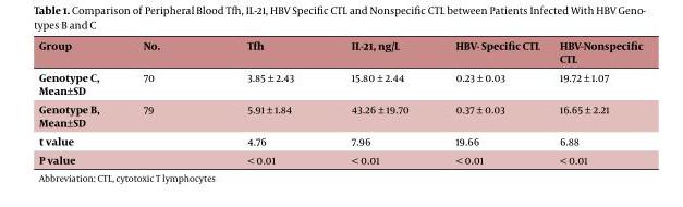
<table><thead><tr><td>Group</td><td>No.</td><td>Tfh</td><td>IL-21, ng/L</td><td>HBV- Specific CTL</td><td>HBV-Nonspecific CTL</td></tr></thead><tbody><tr><td>Genotype C, Mean±SD</td><td>70</td><td>3.85 ± 2.43</td><td>15.80 ± 2.44</td><td>0.23 ± 0.03</td><td>19.72 ± 1.07</td></tr><tr><td>Genotype B, Mean±SD</td><td>79</td><td>5.91 ± 1.84</td><td>43.26 ± 19.70</td><td>0.37 ± 0.03</td><td>16.65 ± 2.21</td></tr><tr><td>t value</td><td></td><td>4.76</td><td>7.96</td><td>19.66</td><td>6.88</td></tr><tr><td>P value</td><td></td><td>&lt; 0.01</td><td>&lt; 0.01</td><td>&lt; 0.01</td><td>&lt; 0.01</td></tr></tbody></table>